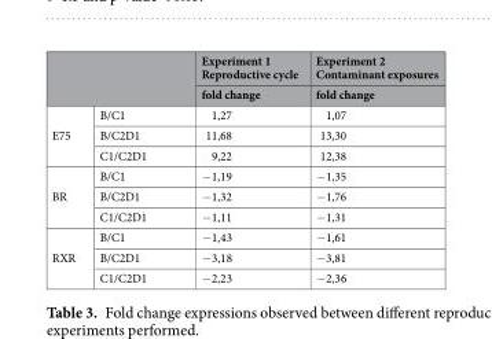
<table><thead><tr><td rowspan="2"></td><td rowspan="2"></td><td rowspan="2">Experiment 1 Reproductive cycle fold change</td><td rowspan="2">Experiment 2 Contaminant exposures fold change</td></tr><tr></tr></thead><tbody><tr><td rowspan="3">E75</td><td>B/C1</td><td>1,27</td><td>1,07</td></tr><tr><td>B/C2D1</td><td>11,68</td><td>13,30</td></tr><tr><td>C1/C2D1</td><td>9,22</td><td>12,38</td></tr><tr><td rowspan="3">BR</td><td>B/C1</td><td>−1,19</td><td>−1,35</td></tr><tr><td>B/C2D1</td><td>−1,32</td><td>−1,76</td></tr><tr><td>C1/C2D1</td><td>−1,11</td><td>−1,31</td></tr><tr><td rowspan="3">RXR</td><td>B/C1</td><td>−1,43</td><td>−1,61</td></tr><tr><td>B/C2D1</td><td>−3,18</td><td>−3,81</td></tr><tr><td>C1/C2D1</td><td>−2,23</td><td>−2,36</td></tr></tbody></table>